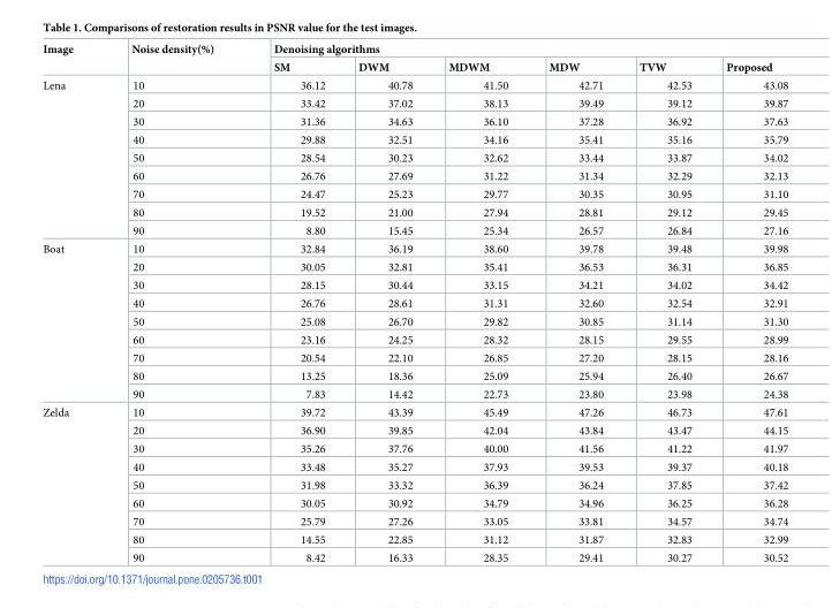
<table><thead><tr><td rowspan="2">Image</td><td rowspan="2">Noise density(%)</td><td colspan="6">Denoising algorithms</td></tr><tr><td>SM</td><td>DWM</td><td>MDWM</td><td>MDW</td><td>TVW</td><td>Proposed</td></tr></thead><tbody><tr><td rowspan="9">Lena</td><td>10</td><td>36.12</td><td>40.78</td><td>41.50</td><td>42.71</td><td>42.53</td><td>43.08</td></tr><tr><td>20</td><td>33.42</td><td>37.02</td><td>38.13</td><td>39.49</td><td>39.12</td><td>39.87</td></tr><tr><td>30</td><td>31.36</td><td>34.63</td><td>36.10</td><td>37.28</td><td>36.92</td><td>37.63</td></tr><tr><td>40</td><td>29.88</td><td>32.51</td><td>34.16</td><td>35.41</td><td>35.16</td><td>35.79</td></tr><tr><td>50</td><td>28.54</td><td>30.23</td><td>32.62</td><td>33.44</td><td>33.87</td><td>34.02</td></tr><tr><td>60</td><td>26.76</td><td>27.69</td><td>31.22</td><td>31.34</td><td>32.29</td><td>32.13</td></tr><tr><td>70</td><td>24.47</td><td>25.23</td><td>29.77</td><td>30.35</td><td>30.95</td><td>31.10</td></tr><tr><td>80</td><td>19.52</td><td>21.00</td><td>27.94</td><td>28.81</td><td>29.12</td><td>29.45</td></tr><tr><td>90</td><td>8.80</td><td>15.45</td><td>25.34</td><td>26.57</td><td>26.84</td><td>27.16</td></tr><tr><td rowspan="9">Boat</td><td>10</td><td>32.84</td><td>36.19</td><td>38.60</td><td>39.78</td><td>39.48</td><td>39.98</td></tr><tr><td>20</td><td>30.05</td><td>32.81</td><td>35.41</td><td>36.53</td><td>36.31</td><td>36.85</td></tr><tr><td>30</td><td>28.15</td><td>30.44</td><td>33.15</td><td>34.21</td><td>34.02</td><td>34.42</td></tr><tr><td>40</td><td>26.76</td><td>28.61</td><td>31.31</td><td>32.60</td><td>32.54</td><td>32.91</td></tr><tr><td>50</td><td>25.08</td><td>26.70</td><td>29.82</td><td>30.85</td><td>31.14</td><td>31.30</td></tr><tr><td>60</td><td>23.16</td><td>24.25</td><td>28.32</td><td>28.15</td><td>29.55</td><td>28.99</td></tr><tr><td>70</td><td>20.54</td><td>22.10</td><td>26.85</td><td>27.20</td><td>28.15</td><td>28.16</td></tr><tr><td>80</td><td>13.25</td><td>18.36</td><td>25.09</td><td>25.94</td><td>26.40</td><td>26.67</td></tr><tr><td>90</td><td>7.83</td><td>14.42</td><td>22.73</td><td>23.80</td><td>23.98</td><td>24.38</td></tr><tr><td rowspan="9">Zelda</td><td>10</td><td>39.72</td><td>43.39</td><td>45.49</td><td>47.26</td><td>46.73</td><td>47.61</td></tr><tr><td>20</td><td>36.90</td><td>39.85</td><td>42.04</td><td>43.84</td><td>43.47</td><td>44.15</td></tr><tr><td>30</td><td>35.26</td><td>37.76</td><td>40.00</td><td>41.56</td><td>41.22</td><td>41.97</td></tr><tr><td>40</td><td>33.48</td><td>35.27</td><td>37.93</td><td>39.53</td><td>39.37</td><td>40.18</td></tr><tr><td>50</td><td>31.98</td><td>33.32</td><td>36.39</td><td>36.24</td><td>37.85</td><td>37.42</td></tr><tr><td>60</td><td>30.05</td><td>30.92</td><td>34.79</td><td>34.96</td><td>36.25</td><td>36.28</td></tr><tr><td>70</td><td>25.79</td><td>27.26</td><td>33.05</td><td>33.81</td><td>34.57</td><td>34.74</td></tr><tr><td>80</td><td>14.55</td><td>22.85</td><td>31.12</td><td>31.87</td><td>32.83</td><td>32.99</td></tr><tr><td>90</td><td>8.42</td><td>16.33</td><td>28.35</td><td>29.41</td><td>30.27</td><td>30.52</td></tr></tbody></table>